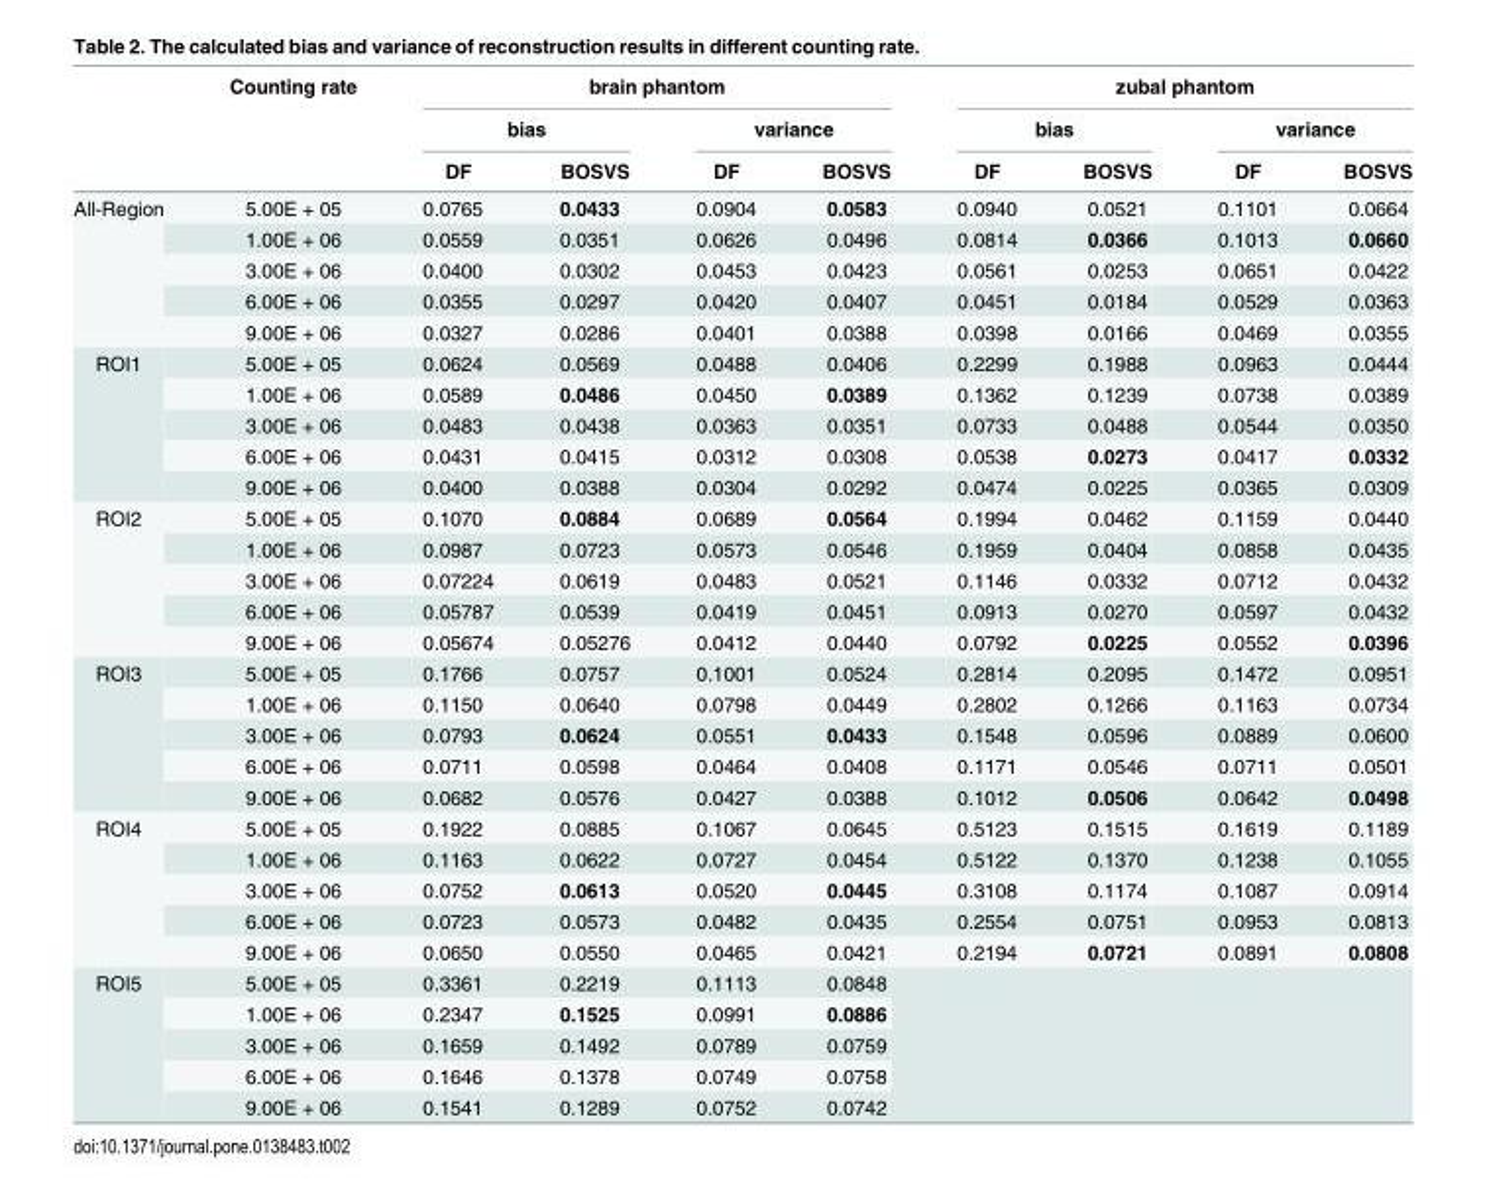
<table><thead><tr><td rowspan="3"></td><td rowspan="3">Counting rate</td><td colspan="4">brain phantom</td><td colspan="4">zubal phantom</td></tr><tr><td colspan="2">bias</td><td colspan="2">variance</td><td colspan="2">bias</td><td colspan="2">variance</td></tr><tr><td>DF</td><td>BOSVS</td><td>DF</td><td>BOSVS</td><td>DF</td><td>BOSVS</td><td>DF</td><td>BOSVS</td></tr></thead><tbody><tr><td rowspan="5">All-Region</td><td>5.00E + 05</td><td>0.0765</td><td>0.0433</td><td>0.0904</td><td>0.0583</td><td>0.0940</td><td>0.0521</td><td>0.1101</td><td>0.0664</td></tr><tr><td>1.00E + 06</td><td>0.0559</td><td>0.0351</td><td>0.0626</td><td>0.0496</td><td>0.0814</td><td>0.0366</td><td>0.1013</td><td>0.0660</td></tr><tr><td>3.00E + 06</td><td>0.0400</td><td>0.0302</td><td>0.0453</td><td>0.0423</td><td>0.0561</td><td>0.0253</td><td>0.0651</td><td>0.0422</td></tr><tr><td>6.00E + 06</td><td>0.0355</td><td>0.0297</td><td>0.0420</td><td>0.0407</td><td>0.0451</td><td>0.0184</td><td>0.0529</td><td>0.0363</td></tr><tr><td>9.00E + 06</td><td>0.0327</td><td>0.0286</td><td>0.0401</td><td>0.0388</td><td>0.0398</td><td>0.0166</td><td>0.0469</td><td>0.0355</td></tr><tr><td rowspan="5">ROI1</td><td>5.00E + 05</td><td>0.0624</td><td>0.0569</td><td>0.0488</td><td>0.0406</td><td>0.2299</td><td>0.1988</td><td>0.0963</td><td>0.0444</td></tr><tr><td>1.00E + 06</td><td>0.0589</td><td>0.0486</td><td>0.0450</td><td>0.0389</td><td>0.1362</td><td>0.1239</td><td>0.0738</td><td>0.0389</td></tr><tr><td>3.00E + 06</td><td>0.0483</td><td>0.0438</td><td>0.0363</td><td>0.0351</td><td>0.0733</td><td>0.0488</td><td>0.0544</td><td>0.0350</td></tr><tr><td>6.00E + 06</td><td>0.0431</td><td>0.0415</td><td>0.0312</td><td>0.0308</td><td>0.0538</td><td>0.0273</td><td>0.0417</td><td>0.0332</td></tr><tr><td>9.00E + 06</td><td>0.0400</td><td>0.0388</td><td>0.0304</td><td>0.0292</td><td>0.0474</td><td>0.0225</td><td>0.0365</td><td>0.0309</td></tr><tr><td rowspan="5">ROI2</td><td>5.00E + 05</td><td>0.1070</td><td>0.0884</td><td>0.0689</td><td>0.0564</td><td>0.1994</td><td>0.0462</td><td>0.1159</td><td>0.0440</td></tr><tr><td>1.00E + 06</td><td>0.0987</td><td>0.0723</td><td>0.0573</td><td>0.0546</td><td>0.1959</td><td>0.0404</td><td>0.0858</td><td>0.0435</td></tr><tr><td>3.00E + 06</td><td>0.07224</td><td>0.0619</td><td>0.0483</td><td>0.0521</td><td>0.1146</td><td>0.0332</td><td>0.0712</td><td>0.0432</td></tr><tr><td>6.00E + 06</td><td>0.05787</td><td>0.0539</td><td>0.0419</td><td>0.0451</td><td>0.0913</td><td>0.0270</td><td>0.0597</td><td>0.0432</td></tr><tr><td>9.00E + 06</td><td>0.05674</td><td>0.05276</td><td>0.0412</td><td>0.0440</td><td>0.0792</td><td>0.0225</td><td>0.0552</td><td>0.0396</td></tr><tr><td rowspan="5">ROI3</td><td>5.00E + 05</td><td>0.1766</td><td>0.0757</td><td>0.1001</td><td>0.0524</td><td>0.2814</td><td>0.2095</td><td>0.1472</td><td>0.0951</td></tr><tr><td>1.00E + 06</td><td>0.1150</td><td>0.0640</td><td>0.0798</td><td>0.0449</td><td>0.2802</td><td>0.1266</td><td>0.1163</td><td>0.0734</td></tr><tr><td>3.00E + 06</td><td>0.0793</td><td>0.0624</td><td>0.0551</td><td>0.0433</td><td>0.1548</td><td>0.0596</td><td>0.0889</td><td>0.0600</td></tr><tr><td>6.00E + 06</td><td>0.0711</td><td>0.0598</td><td>0.0464</td><td>0.0408</td><td>0.1171</td><td>0.0546</td><td>0.0711</td><td>0.0501</td></tr><tr><td>9.00E + 06</td><td>0.0682</td><td>0.0576</td><td>0.0427</td><td>0.0388</td><td>0.1012</td><td>0.0506</td><td>0.0642</td><td>0.0498</td></tr><tr><td rowspan="5">ROI4</td><td>5.00E + 05</td><td>0.1922</td><td>0.0885</td><td>0.1067</td><td>0.0645</td><td>0.5123</td><td>0.1515</td><td>0.1619</td><td>0.1189</td></tr><tr><td>1.00E + 06</td><td>0.1163</td><td>0.0622</td><td>0.0727</td><td>0.0454</td><td>0.5122</td><td>0.1370</td><td>0.1238</td><td>0.1055</td></tr><tr><td>3.00E + 06</td><td>0.0752</td><td>0.0613</td><td>0.0520</td><td>0.0445</td><td>0.3108</td><td>0.1174</td><td>0.1087</td><td>0.0914</td></tr><tr><td>6.00E + 06</td><td>0.0723</td><td>0.0573</td><td>0.0482</td><td>0.0435</td><td>0.2554</td><td>0.0751</td><td>0.0953</td><td>0.0813</td></tr><tr><td>9.00E + 06</td><td>0.0650</td><td>0.0550</td><td>0.0465</td><td>0.0421</td><td>0.2194</td><td>0.0721</td><td>0.0891</td><td>0.0808</td></tr><tr><td rowspan="5">ROI5</td><td>5.00E + 05</td><td>0.3361</td><td>0.2219</td><td>0.1113</td><td>0.0848</td><td rowspan="5" colspan="4"></td></tr><tr><td>1.00E + 06</td><td>0.2347</td><td>0.1525</td><td>0.0991</td><td>0.0886</td></tr><tr><td>3.00E + 06</td><td>0.1659</td><td>0.1492</td><td>0.0789</td><td>0.0759</td></tr><tr><td>6.00E + 06</td><td>0.1646</td><td>0.1378</td><td>0.0749</td><td>0.0758</td></tr><tr><td>9.00E + 06</td><td>0.1541</td><td>0.1289</td><td>0.0752</td><td>0.0742</td></tr></tbody></table>